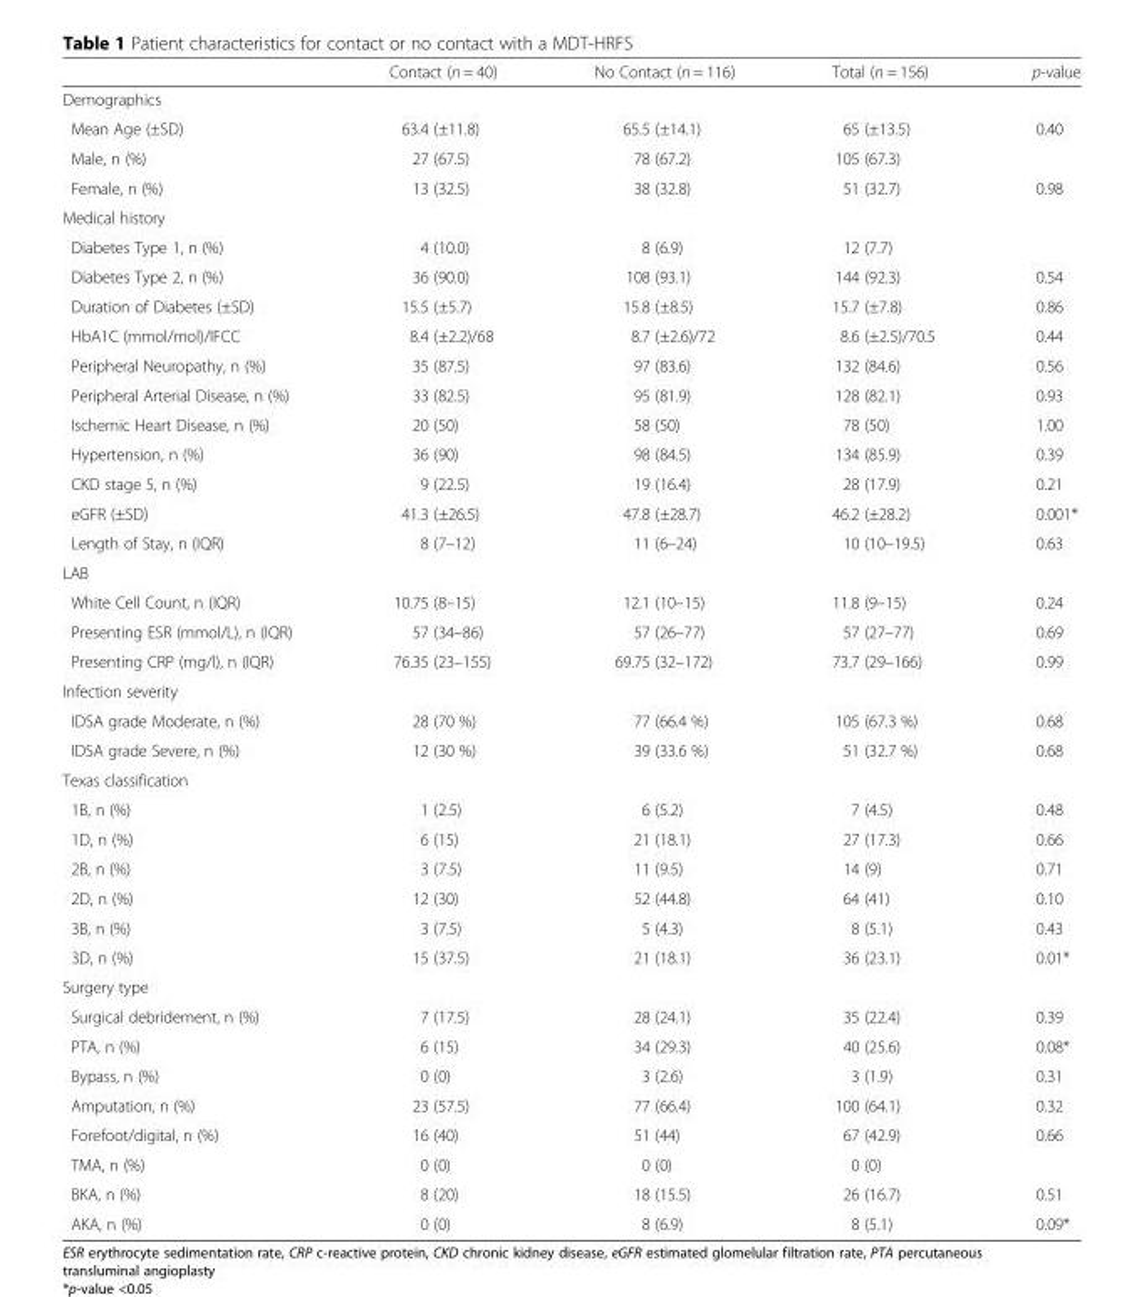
<table><thead><tr><td></td><td>Contact (n = 40)</td><td>No Contact (n = 116)</td><td>Total (n = 156)</td><td>p-value</td></tr></thead><tbody><tr><td colspan="5">Demographics</td></tr><tr><td>Mean Age (±SD)</td><td>63.4 (±11.8)</td><td>65.5 (±14.1)</td><td>65 (±13.5)</td><td>0.40</td></tr><tr><td>Male, n (%)</td><td>27 (67.5)</td><td>78 (67.2)</td><td>105 (67.3)</td><td></td></tr><tr><td>Female, n (%)</td><td>13 (32.5)</td><td>38 (32.8)</td><td>51 (32.7)</td><td>0.98</td></tr><tr><td colspan="5">Medical history</td></tr><tr><td>Diabetes Type 1, n (%)</td><td>4 (10.0)</td><td>8 (6.9)</td><td>12 (7.7)</td><td></td></tr><tr><td>Diabetes Type 2, n (%)</td><td>36 (90.0)</td><td>108 (93.1)</td><td>144 (92.3)</td><td>0.54</td></tr><tr><td>Duration of Diabetes (±SD)</td><td>15.5 (±5.7)</td><td>15.8 (±8.5)</td><td>15.7 (±7.8)</td><td>0.86</td></tr><tr><td>HbA1C (mmol/mol)/IFCC</td><td>8.4 (±2.2)/68</td><td>8.7 (±2.6)/72</td><td>8.6 (±2.5)/70.5</td><td>0.44</td></tr><tr><td>Peripheral Neuropathy, n (%)</td><td>35 (87.5)</td><td>97 (83.6)</td><td>132 (84.6)</td><td>0.56</td></tr><tr><td>Peripheral Arterial Disease, n (%)</td><td>33 (82.5)</td><td>95 (81.9)</td><td>128 (82.1)</td><td>0.93</td></tr><tr><td>Ischemic Heart Disease, n (%)</td><td>20 (50)</td><td>58 (50)</td><td>78 (50)</td><td>1.00</td></tr><tr><td>Hypertension, n (%)</td><td>36 (90)</td><td>98 (84.5)</td><td>134 (85.9)</td><td>0.39</td></tr><tr><td>CKD stage 5, n (%)</td><td>9 (22.5)</td><td>19 (16.4)</td><td>28 (17.9)</td><td>0.21</td></tr><tr><td>eGFR (±SD)</td><td>41.3 (±26.5)</td><td>47.8 (±28.7)</td><td>46.2 (±28.2)</td><td>0.001*</td></tr><tr><td>Length of Stay, n (IQR)</td><td>8 (7–12)</td><td>11 (6–24)</td><td>10 (10–19.5)</td><td>0.63</td></tr><tr><td colspan="5">LAB</td></tr><tr><td>White Cell Count, n (IQR)</td><td>10.75 (8–15)</td><td>12.1 (10–15)</td><td>11.8 (9–15)</td><td>0.24</td></tr><tr><td>Presenting ESR (mmol/L), n (IQR)</td><td>57 (34–86)</td><td>57 (26–77)</td><td>57 (27–77)</td><td>0.69</td></tr><tr><td>Presenting CRP (mg/l), n (IQR)</td><td>76.35 (23–155)</td><td>69.75 (32–172)</td><td>73.7 (29–166)</td><td>0.99</td></tr><tr><td colspan="5">Infection severity</td></tr><tr><td>IDSA grade Moderate, n (%)</td><td>28 (70 %)</td><td>77 (66.4 %)</td><td>105 (67.3 %)</td><td>0.68</td></tr><tr><td>IDSA grade Severe, n (%)</td><td>12 (30 %)</td><td>39 (33.6 %)</td><td>51 (32.7 %)</td><td>0.68</td></tr><tr><td colspan="5">Texas classification</td></tr><tr><td>1B, n (%)</td><td>1 (2.5)</td><td>6 (5.2)</td><td>7 (4.5)</td><td>0.48</td></tr><tr><td>1D, n (%)</td><td>6 (15)</td><td>21 (18.1)</td><td>27 (17.3)</td><td>0.66</td></tr><tr><td>2B, n (%)</td><td>3 (7.5)</td><td>11 (9.5)</td><td>14 (9)</td><td>0.71</td></tr><tr><td>2D, n (%)</td><td>12 (30)</td><td>52 (44.8)</td><td>64 (41)</td><td>0.10</td></tr><tr><td>3B, n (%)</td><td>3 (7.5)</td><td>5 (4.3)</td><td>8 (5.1)</td><td>0.43</td></tr><tr><td>3D, n (%)</td><td>15 (37.5)</td><td>21 (18.1)</td><td>36 (23.1)</td><td>0.01*</td></tr><tr><td colspan="5">Surgery type</td></tr><tr><td>Surgical debridement, n (%)</td><td>7 (17.5)</td><td>28 (24.1)</td><td>35 (22.4)</td><td>0.39</td></tr><tr><td>PTA, n (%)</td><td>6 (15)</td><td>34 (29.3)</td><td>40 (25.6)</td><td>0.08*</td></tr><tr><td>Bypass, n (%)</td><td>0 (0)</td><td>3 (2.6)</td><td>3 (1.9)</td><td>0.31</td></tr><tr><td>Amputation, n (%)</td><td>23 (57.5)</td><td>77 (66.4)</td><td>100 (64.1)</td><td>0.32</td></tr><tr><td>Forefoot/digital, n (%)</td><td>16 (40)</td><td>51 (44)</td><td>67 (42.9)</td><td>0.66</td></tr><tr><td>TMA, n (%)</td><td>0 (0)</td><td>0 (0)</td><td>0 (0)</td><td></td></tr><tr><td>BKA, n (%)</td><td>8 (20)</td><td>18 (15.5)</td><td>26 (16.7)</td><td>0.51</td></tr><tr><td>AKA, n (%)</td><td>0 (0)</td><td>8 (6.9)</td><td>8 (5.1)</td><td>0.09*</td></tr></tbody></table>